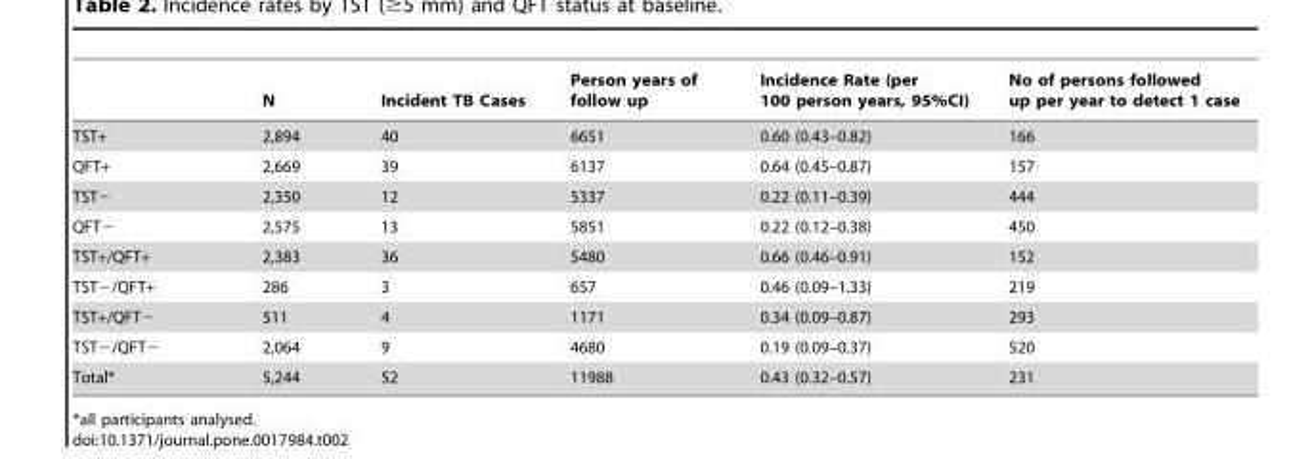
<table><thead><tr><td></td><td>N</td><td>Incident TB Cases</td><td>Person years of follow up</td><td>Incidence Rate (per 100 person years, 95%CI)</td><td>No of persons followed up per year to detect 1 case</td></tr></thead><tbody><tr><td>TST+</td><td>2,894</td><td>40</td><td>6651</td><td>0.60 (0.43–0.82)</td><td>166</td></tr><tr><td>QFT+</td><td>2,669</td><td>39</td><td>6137</td><td>0.64 (0.45–0.87)</td><td>157</td></tr><tr><td>TST−</td><td>2,350</td><td>12</td><td>5337</td><td>0.22 (0.11–0.39)</td><td>444</td></tr><tr><td>QFT−</td><td>2,575</td><td>13</td><td>5851</td><td>0.22 (0.12–0.38)</td><td>450</td></tr><tr><td>TST+/QFT+</td><td>2,383</td><td>36</td><td>5480</td><td>0.66 (0.46–0.91)</td><td>152</td></tr><tr><td>TST−/QFT+</td><td>286</td><td>3</td><td>657</td><td>0.46 (0.09–1.33)</td><td>219</td></tr><tr><td>TST+/QFT−</td><td>511</td><td>4</td><td>1171</td><td>0.34 (0.09–0.87)</td><td>293</td></tr><tr><td>TST−/QFT−</td><td>2,064</td><td>9</td><td>4680</td><td>0.19 (0.09–0.37)</td><td>520</td></tr><tr><td>Total*</td><td>5,244</td><td>52</td><td>11988</td><td>0.43 (0.32–0.57)</td><td>231</td></tr></tbody></table>